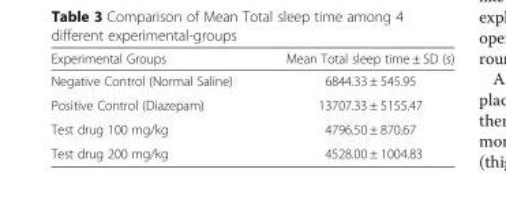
<table><thead><tr><td>Experimental Groups</td><td>Mean Total sleep time ± SD (s)</td></tr></thead><tbody><tr><td>Negative Control (Normal Saline)</td><td>6844.33 ± 545.95</td></tr><tr><td>Positive Control (Diazepam)</td><td>13707.33 ± 5155.47</td></tr><tr><td>Test drug 100 mg/kg</td><td>4796.50 ± 870.67</td></tr><tr><td>Test drug 200 mg/kg</td><td>4528.00 ± 1004.83</td></tr></tbody></table>